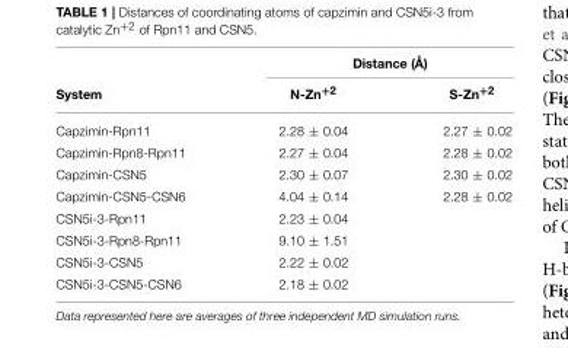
<table><thead><tr><td rowspan="2">System</td><td colspan="2">Distance (Å)</td></tr><tr><td>N-Zn<sup>+2</sup></td><td>S-Zn<sup>+2</sup></td></tr></thead><tbody><tr><td>Capzimin-Rpn11</td><td>2.28 ± 0.04</td><td>2.27 ± 0.02</td></tr><tr><td>Capzimin-Rpn8-Rpn11</td><td>2.27 ± 0.04</td><td>2.28 ± 0.02</td></tr><tr><td>Capzimin-CSN5</td><td>2.30 ± 0.07</td><td>2.30 ± 0.02</td></tr><tr><td>Capzimin-CSN5-CSN6</td><td>4.04 ± 0.14</td><td>2.28 ± 0.02</td></tr><tr><td>CSN5i-3-Rpn11</td><td>2.23 ± 0.04</td><td></td></tr><tr><td>CSN5i-3-Rpn8-Rpn11</td><td>9.10 ± 1.51</td><td></td></tr><tr><td>CSN5i-3-CSN5</td><td>2.22 ± 0.02</td><td></td></tr><tr><td>CSN5i-3-CSN5-CSN6</td><td>2.18 ± 0.02</td><td></td></tr></tbody></table>